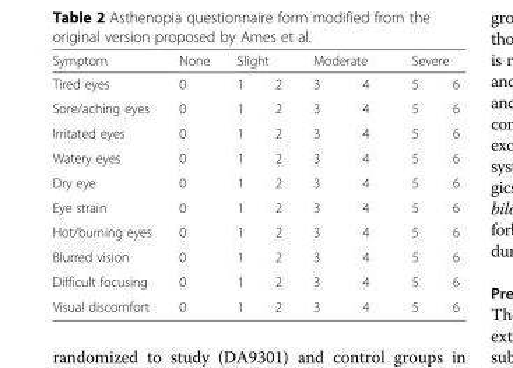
<table><thead><tr><td rowspan="2">Symptom Tired eyes</td><td rowspan="2">None 0</td><td colspan="2">Slight</td><td colspan="2">Moderate</td><td colspan="2">Severe</td></tr><tr><td>1</td><td>2</td><td>3</td><td>4</td><td>5</td><td>6</td></tr></thead><tbody><tr><td>Sore/aching eyes</td><td>0</td><td>1</td><td>2</td><td>3</td><td>4</td><td>5</td><td>6</td></tr><tr><td>Irritated eyes</td><td>0</td><td>1</td><td>2</td><td>3</td><td>4</td><td>5</td><td>6</td></tr><tr><td>Watery eyes</td><td>0</td><td>1</td><td>2</td><td>3</td><td>4</td><td>5</td><td>6</td></tr><tr><td>Dry eye</td><td>0</td><td>1</td><td>2</td><td>3</td><td>4</td><td>5</td><td>6</td></tr><tr><td>Eye strain</td><td>0</td><td>1</td><td>2</td><td>3</td><td>4</td><td>5</td><td>6</td></tr><tr><td>Hot/burning eyes</td><td>0</td><td>1</td><td>2</td><td>3</td><td>4</td><td>5</td><td>6</td></tr><tr><td>Blurred vision</td><td>0</td><td>1</td><td>2</td><td>3</td><td>4</td><td>5</td><td>6</td></tr><tr><td>Difficult focusing</td><td>0</td><td>1</td><td>2</td><td>3</td><td>4</td><td>5</td><td>6</td></tr><tr><td>Visual discomfort</td><td>0</td><td>1</td><td>2</td><td>3</td><td>4</td><td>5</td><td>6</td></tr></tbody></table>